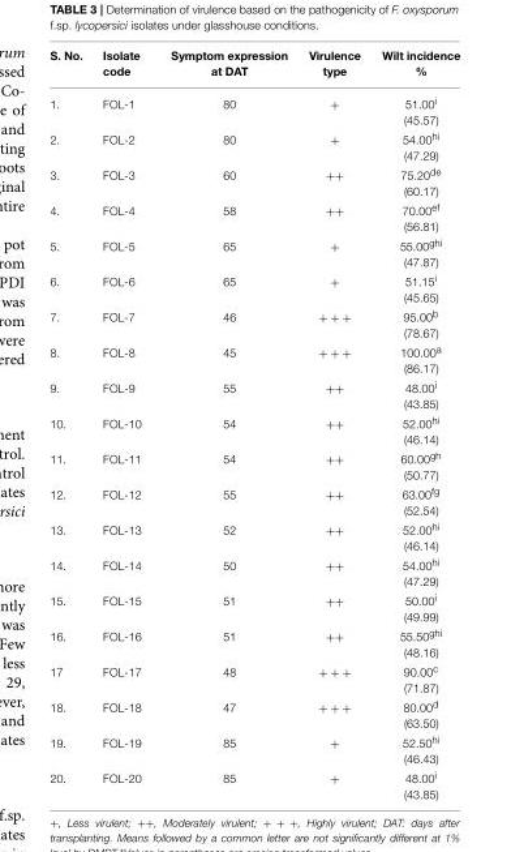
<table><thead><tr><td>S. No.</td><td>Isolate code</td><td>Symptom expression at DAT</td><td>Virulence type</td><td>Wilt incidence %</td></tr></thead><tbody><tr><td>1.</td><td>FOL-1</td><td>80</td><td>+</td><td>51.00<sup>i</sup> (45.57)</td></tr><tr><td>2.</td><td>FOL-2</td><td>80</td><td>+</td><td>54.00<sup>hi</sup> (47.29)</td></tr><tr><td>3.</td><td>FOL-3</td><td>60</td><td>++</td><td>75.20<sup>de</sup> (60.17)</td></tr><tr><td>4.</td><td>FOL-4</td><td>58</td><td>++</td><td>70.00<sup>ef</sup> (56.81)</td></tr><tr><td>5.</td><td>FOL-5</td><td>65</td><td>+</td><td>55.00<sup>ghi</sup> (47.87)</td></tr><tr><td>6.</td><td>FOL-6</td><td>65</td><td>+</td><td>51.15<sup>i</sup> (45.65)</td></tr><tr><td>7.</td><td>FOL-7</td><td>46</td><td>+ + +</td><td>95.00<sup>b</sup> (78.67)</td></tr><tr><td>8.</td><td>FOL-8</td><td>45</td><td>+ + +</td><td>100.00<sup>a</sup> (86.17)</td></tr><tr><td>9.</td><td>FOL-9</td><td>55</td><td>++</td><td>48.00<sup>i</sup> (43.85)</td></tr><tr><td>10.</td><td>FOL-10</td><td>54</td><td>++</td><td>52.00<sup>hi</sup> (46.14)</td></tr><tr><td>11.</td><td>FOL-11</td><td>54</td><td>++</td><td>60.00<sup>gh</sup> (50.77)</td></tr><tr><td>12.</td><td>FOL-12</td><td>55</td><td>++</td><td>63.00<sup>fg</sup> (52.54)</td></tr><tr><td>13.</td><td>FOL-13</td><td>52</td><td>++</td><td>52.00<sup>hi</sup> (46.14)</td></tr><tr><td>14.</td><td>FOL-14</td><td>50</td><td>++</td><td>54.00<sup>hi</sup> (47.29)</td></tr><tr><td>15.</td><td>FOL-15</td><td>51</td><td>++</td><td>50.00<sup>i</sup> (49.99)</td></tr><tr><td>16.</td><td>FOL-16</td><td>51</td><td>++</td><td>55.50<sup>ghi</sup> (48.16)</td></tr><tr><td>17</td><td>FOL-17</td><td>48</td><td>+ + +</td><td>90.00<sup>c</sup> (71.87)</td></tr><tr><td>18.</td><td>FOL-18</td><td>47</td><td>+ + +</td><td>80.00<sup>d</sup> (63.50)</td></tr><tr><td>19.</td><td>FOL-19</td><td>85</td><td>+</td><td>52.50<sup>hi</sup> (46.43)</td></tr><tr><td>20.</td><td>FOL-20</td><td>85</td><td>+</td><td>48.00<sup>i</sup> (43.85)</td></tr></tbody></table>